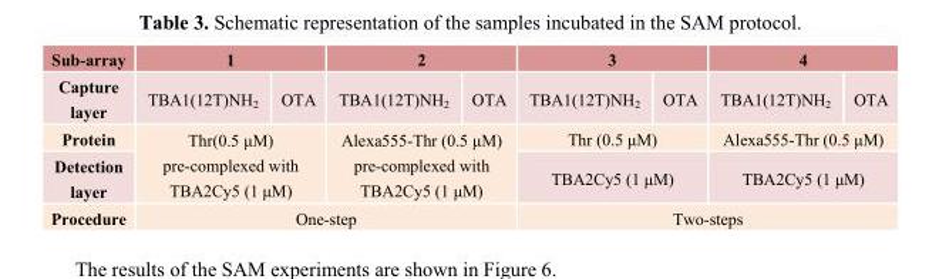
<table><thead><tr><td rowspan="2">Sub-array Capture layer</td><td colspan="2">1</td><td colspan="2">2</td><td colspan="2">3</td><td colspan="2">4</td></tr><tr><td>TBA1(12T)NH<sub>2</sub></td><td>OTA</td><td>TBA1(12T)NH<sub>2</sub></td><td>OTA</td><td>TBA1(12T)NH<sub>2</sub></td><td>OTA</td><td>TBA1(12T)NH<sub>2</sub></td><td>OTA</td></tr></thead><tbody><tr><td>Protein</td><td rowspan="2" colspan="2">Thr(0.5 μM) pre-complexed with TBA2Cy5 (1 μM)</td><td rowspan="2" colspan="2">Alexa555-Thr (0.5 μM) pre-complexed with TBA2Cy5 (1 μM)</td><td colspan="2">Thr (0.5 μM)</td><td colspan="2">Alexa555-Thr (0.5 μM)</td></tr><tr><td>Detection layer</td><td colspan="2">TBA2Cy5 (1 μM)</td><td colspan="2">TBA2Cy5 (1 μM)</td></tr><tr><td>Procedure</td><td colspan="4">One-step</td><td colspan="4">Two-steps</td></tr></tbody></table>